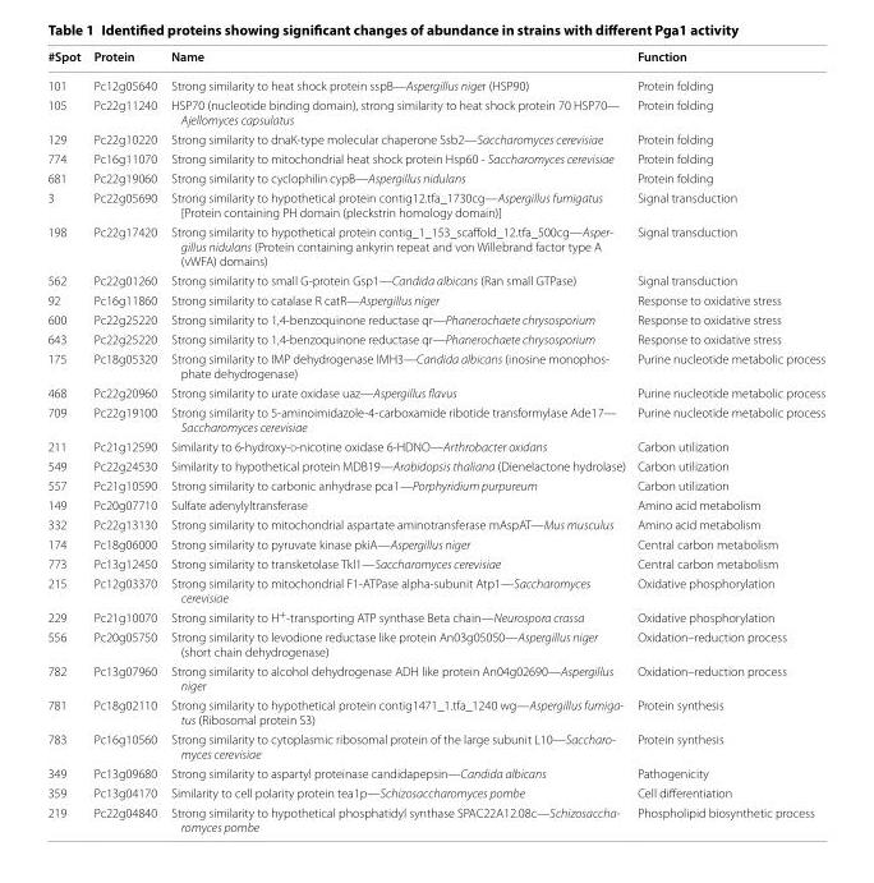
<table><thead><tr><td>#Spot</td><td>Protein</td><td>Name</td><td>Function</td></tr></thead><tbody><tr><td>101</td><td>Pc12g05640</td><td>Strong similarity to heat shock protein sspB—Aspergillus niger (HSP90)</td><td>Protein folding</td></tr><tr><td>105</td><td>Pc22g11240</td><td>HSP70 (nucleotide binding domain), strong similarity to heat shock protein 70 HSP70— Ajellomyces capsulatus</td><td>Protein folding</td></tr><tr><td>129</td><td>Pc22g10220</td><td>Strong similarity to dnaK‑type molecular chaperone Ssb2—Saccharomyces cerevisiae</td><td>Protein folding</td></tr><tr><td>774</td><td>Pc16g11070</td><td>Strong similarity to mitochondrial heat shock protein Hsp60 ‑ Saccharomyces cerevisiae</td><td>Protein folding</td></tr><tr><td>681</td><td>Pc22g19060</td><td>Strong similarity to cyclophilin cypB—Aspergillus nidulans</td><td>Protein folding</td></tr><tr><td>3</td><td>Pc22g05690</td><td>Strong similarity to hypothetical protein contig12.tfa_1730cg—Aspergillus fumigatus [Protein containing PH domain (pleckstrin homology domain)]</td><td>Signal transduction</td></tr><tr><td>198</td><td>Pc22g17420</td><td>Strong similarity to hypothetical protein contig_1_153_scaffold_12.tfa_500cg—Asper- gillus nidulans (Protein containing ankyrin repeat and von Willebrand factor type A (vWFA) domains)</td><td>Signal transduction</td></tr><tr><td>562</td><td>Pc22g01260</td><td>Strong similarity to small G‑protein Gsp1—Candida albicans (Ran small GTPase)</td><td>Signal transduction</td></tr><tr><td>92</td><td>Pc16g11860</td><td>Strong similarity to catalase R catR—Aspergillus niger</td><td>Response to oxidative stress</td></tr><tr><td>600</td><td>Pc22g25220</td><td>Strong similarity to 1,4‑benzoquinone reductase qr—Phanerochaete chrysosporium</td><td>Response to oxidative stress</td></tr><tr><td>643</td><td>Pc22g25220</td><td>Strong similarity to 1,4‑benzoquinone reductase qr—Phanerochaete chrysosporium</td><td>Response to oxidative stress</td></tr><tr><td>175</td><td>Pc18g05320</td><td>Strong similarity to IMP dehydrogenase IMH3—Candida albicans (inosine monophos‑ phate dehydrogenase)</td><td>Purine nucleotide metabolic process</td></tr><tr><td>468</td><td>Pc22g20960</td><td>Strong similarity to urate oxidase uaz—Aspergillus flavus</td><td>Purine nucleotide metabolic process</td></tr><tr><td>709</td><td>Pc22g19100</td><td>Strong similarity to 5‑aminoimidazole‑4‑carboxamide ribotide transformylase Ade17— Saccharomyces cerevisiae</td><td>Purine nucleotide metabolic process</td></tr><tr><td>211</td><td>Pc21g12590</td><td>Similarity to 6‑hydroxy‑d‑nicotine oxidase 6‑HDNO—Arthrobacter oxidans</td><td>Carbon utilization</td></tr><tr><td>549</td><td>Pc22g24530</td><td>Similarity to hypothetical protein MDB19—Arabidopsis thaliana (Dienelactone hydrolase)</td><td>Carbon utilization</td></tr><tr><td>557</td><td>Pc21g10590</td><td>Strong similarity to carbonic anhydrase pca1—Porphyridium purpureum</td><td>Carbon utilization</td></tr><tr><td>149</td><td>Pc20g07710</td><td>Sulfate adenylyltransferase</td><td>Amino acid metabolism</td></tr><tr><td>332</td><td>Pc22g13130</td><td>Strong similarity to mitochondrial aspartate aminotransferase mAspAT—Mus musculus</td><td>Amino acid metabolism</td></tr><tr><td>174</td><td>Pc18g06000</td><td>Strong similarity to pyruvate kinase pkiA—Aspergillus niger</td><td>Central carbon metabolism</td></tr><tr><td>773</td><td>Pc13g12450</td><td>Strong similarity to transketolase Tkl1—Saccharomyces cerevisiae</td><td>Central carbon metabolism</td></tr><tr><td>215</td><td>Pc12g03370</td><td>Strong similarity to mitochondrial F1‑ATPase alpha‑subunit Atp1—Saccharomyces cerevisiae</td><td>Oxidative phosphorylation</td></tr><tr><td>229</td><td>Pc21g10070</td><td>Strong similarity to H<sup>+</sup>‑transporting ATP synthase Beta chain—Neurospora crassa</td><td>Oxidative phosphorylation</td></tr><tr><td>556</td><td>Pc20g05750</td><td>Strong similarity to levodione reductase like protein An03g05050—Aspergillus niger (short chain dehydrogenase)</td><td>Oxidation–reduction process</td></tr><tr><td>782</td><td>Pc13g07960</td><td>Strong similarity to alcohol dehydrogenase ADH like protein An04g02690—Aspergillus niger</td><td>Oxidation–reduction process</td></tr><tr><td>781</td><td>Pc18g02110</td><td>Strong similarity to hypothetical protein contig1471_1.tfa_1240 wg—Aspergillus fumiga- tus (Ribosomal protein S3)</td><td>Protein synthesis</td></tr><tr><td>783</td><td>Pc16g10560</td><td>Strong similarity to cytoplasmic ribosomal protein of the large subunit L10—Saccharo- myces cerevisiae</td><td>Protein synthesis</td></tr><tr><td>349</td><td>Pc13g09680</td><td>Strong similarity to aspartyl proteinase candidapepsin—Candida albicans</td><td>Pathogenicity</td></tr><tr><td>359</td><td>Pc13g04170</td><td>Similarity to cell polarity protein tea1p—Schizosaccharomyces pombe</td><td>Cell differentiation</td></tr><tr><td>219</td><td>Pc22g04840</td><td>Strong similarity to hypothetical phosphatidyl synthase SPAC22A12.08c—Schizosaccha- romyces pombe</td><td>Phospholipid biosynthetic process</td></tr></tbody></table>